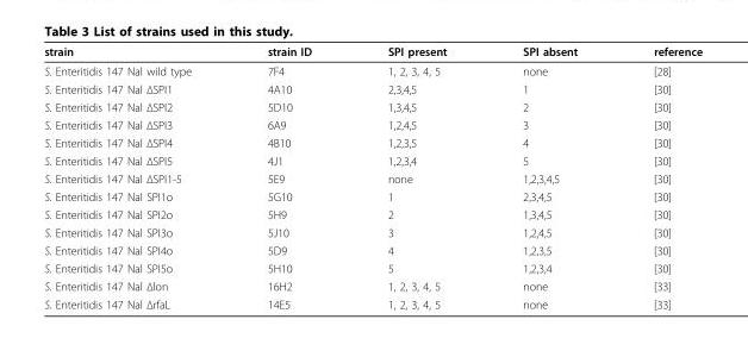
<table><thead><tr><td>strain</td><td>strain ID</td><td>SPI present</td><td>SPI absent</td><td>reference</td></tr></thead><tbody><tr><td>S. Enteritidis 147 Nal wild type</td><td>7F4</td><td>1, 2, 3, 4, 5</td><td>none</td><td>[28]</td></tr><tr><td>S. Enteritidis 147 Nal ΔSPI1</td><td>4A10</td><td>2,3,4,5</td><td>1</td><td>[30]</td></tr><tr><td>S. Enteritidis 147 Nal ΔSPI2</td><td>5D10</td><td>1,3,4,5</td><td>2</td><td>[30]</td></tr><tr><td>S. Enteritidis 147 Nal ΔSPI3</td><td>6A9</td><td>1,2,4,5</td><td>3</td><td>[30]</td></tr><tr><td>S. Enteritidis 147 Nal ΔSPI4</td><td>4B10</td><td>1,2,3,5</td><td>4</td><td>[30]</td></tr><tr><td>S. Enteritidis 147 Nal ΔSPI5</td><td>4J1</td><td>1,2,3,4</td><td>5</td><td>[30]</td></tr><tr><td>S. Enteritidis 147 Nal ΔSPI1-5</td><td>5E9</td><td>none</td><td>1,2,3,4,5</td><td>[30]</td></tr><tr><td>S. Enteritidis 147 Nal SPI1o</td><td>5G10</td><td>1</td><td>2,3,4,5</td><td>[30]</td></tr><tr><td>S. Enteritidis 147 Nal SPI2o</td><td>5H9</td><td>2</td><td>1,3,4,5</td><td>[30]</td></tr><tr><td>S. Enteritidis 147 Nal SPI3o</td><td>5J10</td><td>3</td><td>1,2,4,5</td><td>[30]</td></tr><tr><td>S. Enteritidis 147 Nal SPI4o</td><td>5D9</td><td>4</td><td>1,2,3,5</td><td>[30]</td></tr><tr><td>S. Enteritidis 147 Nal SPI5o</td><td>5H10</td><td>5</td><td>1,2,3,4</td><td>[30]</td></tr><tr><td>S. Enteritidis 147 Nal Δlon</td><td>16H2</td><td>1, 2, 3, 4, 5</td><td>none</td><td>[33]</td></tr><tr><td>S. Enteritidis 147 Nal ΔrfaL</td><td>14E5</td><td>1, 2, 3, 4, 5</td><td>none</td><td>[33]</td></tr></tbody></table>